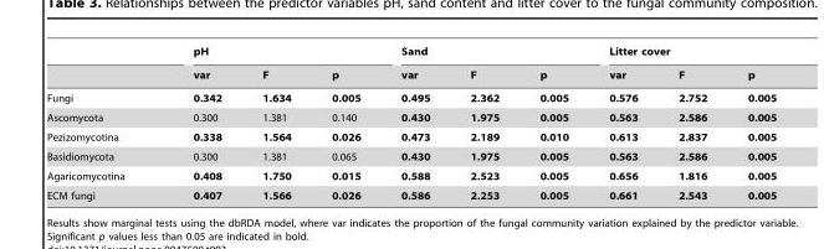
<table><thead><tr><td rowspan="2"></td><td colspan="3">pH</td><td colspan="3">Sand</td><td colspan="3">Litter cover</td></tr><tr><td>var</td><td>F</td><td>p</td><td>var</td><td>F</td><td>p</td><td>var</td><td>F</td><td>p</td></tr></thead><tbody><tr><td>Fungi</td><td>0.342</td><td>1.634</td><td>0.005</td><td>0.495</td><td>2.362</td><td>0.005</td><td>0.576</td><td>2.752</td><td>0.005</td></tr><tr><td>Ascomycota</td><td>0.300</td><td>1.381</td><td>0.140</td><td>0.430</td><td>1.975</td><td>0.005</td><td>0.563</td><td>2.586</td><td>0.005</td></tr><tr><td>Pezizomycotina</td><td>0.338</td><td>1.564</td><td>0.026</td><td>0.473</td><td>2.189</td><td>0.010</td><td>0.613</td><td>2.837</td><td>0.005</td></tr><tr><td>Basidiomycota</td><td>0.300</td><td>1.381</td><td>0.065</td><td>0.430</td><td>1.975</td><td>0.005</td><td>0.563</td><td>2.586</td><td>0.005</td></tr><tr><td>Agaricomycotina</td><td>0.408</td><td>1.750</td><td>0.015</td><td>0.588</td><td>2.523</td><td>0.005</td><td>0.656</td><td>1.816</td><td>0.005</td></tr><tr><td>ECM fungi</td><td>0.407</td><td>1.566</td><td>0.026</td><td>0.586</td><td>2.253</td><td>0.005</td><td>0.661</td><td>2.543</td><td>0.005</td></tr></tbody></table>